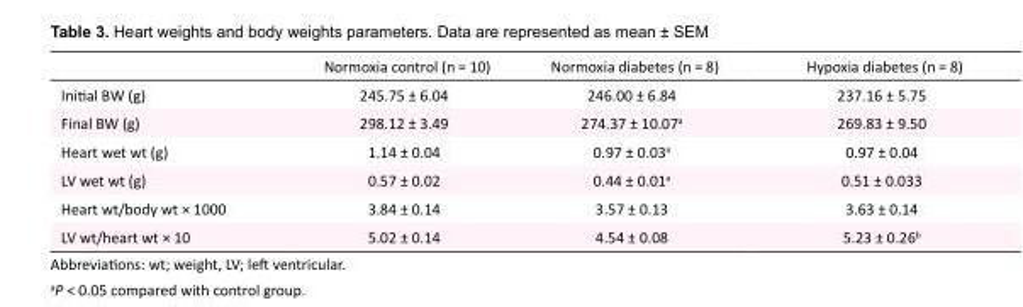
<table><thead><tr><td></td><td>Normoxia control (n = 10)</td><td>Normoxia diabetes (n = 8)</td><td>Hypoxia diabetes (n = 8)</td></tr></thead><tbody><tr><td>Initial BW (g)</td><td>245.75 ± 6.04</td><td>246.00 ± 6.84</td><td>237.16 ± 5.75</td></tr><tr><td>Final BW (g)</td><td>298.12 ± 3.49</td><td>274.37 ± 10.07<sup>a</sup></td><td>269.83 ± 9.50</td></tr><tr><td>Heart wet wt (g)</td><td>1.14 ± 0.04</td><td>0.97 ± 0.03<sup>a</sup></td><td>0.97 ± 0.04</td></tr><tr><td>LV wet wt (g)</td><td>0.57 ± 0.02</td><td>0.44 ± 0.01<sup>a</sup></td><td>0.51 ± 0.033</td></tr><tr><td>Heart wt/body wt × 1000</td><td>3.84 ± 0.14</td><td>3.57 ± 0.13</td><td>3.63 ± 0.14</td></tr><tr><td>LV wt/heart wt × 10</td><td>5.02 ± 0.14</td><td>4.54 ± 0.08</td><td>5.23 ± 0.26<sup>b</sup></td></tr></tbody></table>